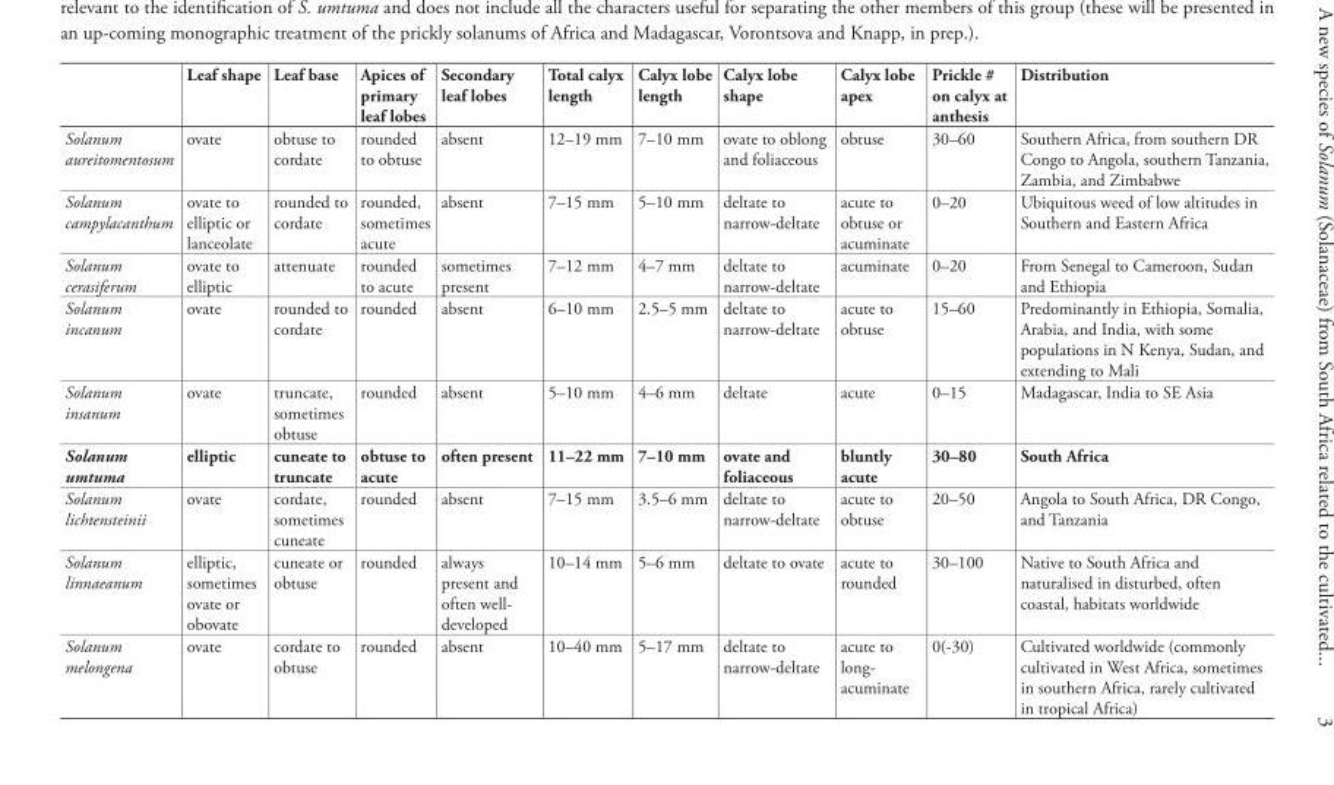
<table><thead><tr><td></td><td>Leaf shape</td><td>Leaf base</td><td>Apices of primary leaf lobes</td><td>Secondary leaf lobes</td><td>Total calyx length</td><td>Calyx lobe length</td><td>Calyx lobe shape</td><td>Calyx lobe apex</td><td>Prickle # on calyx at anthesis</td><td>Distribution</td></tr></thead><tbody><tr><td>Solanum aureitomentosum</td><td>ovate</td><td>obtuse to cordate</td><td>rounded to obtuse</td><td>absent</td><td>12–19 mm</td><td>7–10 mm</td><td>ovate to oblong and foliaceous</td><td>obtuse</td><td>30–60</td><td>Southern Africa, from southern DR Congo to Angola, southern Tanzania, Zambia, and Zimbabwe</td></tr><tr><td>Solanum campylacanthum</td><td>ovate to elliptic or lanceolate</td><td>rounded to cordate</td><td>rounded, sometimes acute</td><td>absent</td><td>7–15 mm</td><td>5–10 mm</td><td>deltate to narrow-deltate</td><td>acute to obtuse or acuminate</td><td>0–20</td><td>Ubiquitous weed of low altitudes in Southern and Eastern Africa</td></tr><tr><td>Solanum cerasiferum</td><td>ovate to elliptic</td><td>attenuate</td><td>rounded to acute</td><td>sometimes present</td><td>7–12 mm</td><td>4–7 mm</td><td>deltate to narrow-deltate</td><td>acuminate</td><td>0–20</td><td>From Senegal to Cameroon, Sudan and Ethiopia</td></tr><tr><td>Solanum incanum</td><td>ovate</td><td>rounded to cordate</td><td>rounded</td><td>absent</td><td>6–10 mm</td><td>2.5–5 mm</td><td>deltate to narrow-deltate</td><td>acute to obtuse</td><td>15–60</td><td>Predominantly in Ethiopia, Somalia, Arabia, and India, with some populations in N Kenya, Sudan, and extending to Mali</td></tr><tr><td>Solanum insanum</td><td>ovate</td><td>truncate, sometimes obtuse</td><td>rounded</td><td>absent</td><td>5–10 mm</td><td>4–6 mm</td><td>deltate</td><td>acute</td><td>0–15</td><td>Madagascar, India to SE Asia</td></tr><tr><td>Solanum umtuma</td><td>elliptic</td><td>cuneate to truncate</td><td>obtuse to acute</td><td>often present</td><td>11–22 mm</td><td>7–10 mm</td><td>ovate and foliaceous</td><td>bluntly acute</td><td>30–80</td><td>South Africa</td></tr><tr><td>Solanum lichtensteinii</td><td>ovate</td><td>cordate, sometimes cuneate</td><td>rounded</td><td>absent</td><td>7–15 mm</td><td>3.5–6 mm</td><td>deltate to narrow-deltate</td><td>acute to obtuse</td><td>20–50</td><td>Angola to South Africa, DR Congo, and Tanzania</td></tr><tr><td>Solanum linnaeanum</td><td>elliptic, sometimes ovate or obovate</td><td>cuneate or obtuse</td><td>rounded</td><td>always present and often well- developed</td><td>10–14 mm</td><td>5–6 mm</td><td>deltate to ovate</td><td>acute to rounded</td><td>30–100</td><td>Native to South Africa and naturalised in disturbed, often coastal, habitats worldwide</td></tr><tr><td>Solanum melongena</td><td>ovate</td><td>cordate to obtuse</td><td>rounded</td><td>absent</td><td>10–40 mm</td><td>5–17 mm</td><td>deltate to narrow-deltate</td><td>acute to long- acuminate</td><td>0(-30)</td><td>Cultivated worldwide (commonly cultivated in West Africa, sometimes in southern Africa, rarely cultivated in tropical Africa)</td></tr></tbody></table>